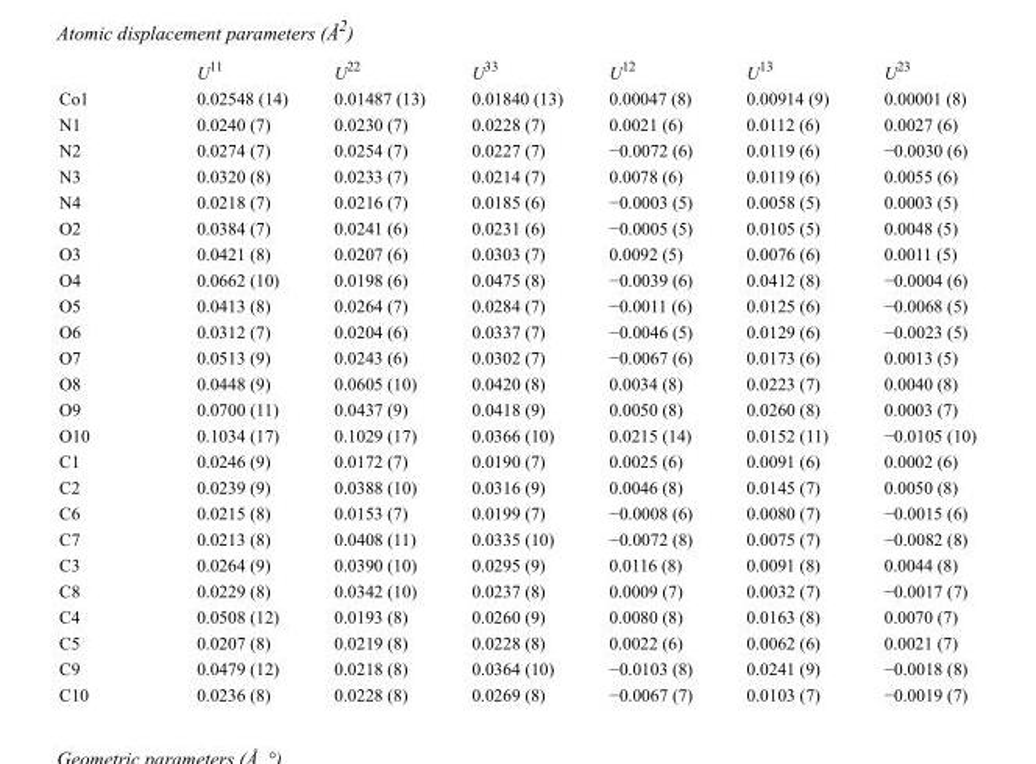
<table><thead><tr><td></td><td>U<sup>11</sup></td><td>U<sup>22</sup></td><td>U<sup>33</sup></td><td>U<sup>12</sup></td><td>U<sup>13</sup></td><td>U<sup>23</sup></td></tr></thead><tbody><tr><td>Co1</td><td>0.02548 (14)</td><td>0.01487 (13)</td><td>0.01840 (13)</td><td>0.00047 (8)</td><td>0.00914 (9)</td><td>0.00001 (8)</td></tr><tr><td>N1</td><td>0.0240 (7)</td><td>0.0230 (7)</td><td>0.0228 (7)</td><td>0.0021 (6)</td><td>0.0112 (6)</td><td>0.0027 (6)</td></tr><tr><td>N2</td><td>0.0274 (7)</td><td>0.0254 (7)</td><td>0.0227 (7)</td><td>−0.0072 (6)</td><td>0.0119 (6)</td><td>−0.0030 (6)</td></tr><tr><td>N3</td><td>0.0320 (8)</td><td>0.0233 (7)</td><td>0.0214 (7)</td><td>0.0078 (6)</td><td>0.0119 (6)</td><td>0.0055 (6)</td></tr><tr><td>N4</td><td>0.0218 (7)</td><td>0.0216 (7)</td><td>0.0185 (6)</td><td>−0.0003 (5)</td><td>0.0058 (5)</td><td>0.0003 (5)</td></tr><tr><td>O2</td><td>0.0384 (7)</td><td>0.0241 (6)</td><td>0.0231 (6)</td><td>−0.0005 (5)</td><td>0.0105 (5)</td><td>0.0048 (5)</td></tr><tr><td>O3</td><td>0.0421 (8)</td><td>0.0207 (6)</td><td>0.0303 (7)</td><td>0.0092 (5)</td><td>0.0076 (6)</td><td>0.0011 (5)</td></tr><tr><td>O4</td><td>0.0662 (10)</td><td>0.0198 (6)</td><td>0.0475 (8)</td><td>−0.0039 (6)</td><td>0.0412 (8)</td><td>−0.0004 (6)</td></tr><tr><td>O5</td><td>0.0413 (8)</td><td>0.0264 (7)</td><td>0.0284 (7)</td><td>−0.0011 (6)</td><td>0.0125 (6)</td><td>−0.0068 (5)</td></tr><tr><td>O6</td><td>0.0312 (7)</td><td>0.0204 (6)</td><td>0.0337 (7)</td><td>−0.0046 (5)</td><td>0.0129 (6)</td><td>−0.0023 (5)</td></tr><tr><td>O7</td><td>0.0513 (9)</td><td>0.0243 (6)</td><td>0.0302 (7)</td><td>−0.0067 (6)</td><td>0.0173 (6)</td><td>0.0013 (5)</td></tr><tr><td>O8</td><td>0.0448 (9)</td><td>0.0605 (10)</td><td>0.0420 (8)</td><td>0.0034 (8)</td><td>0.0223 (7)</td><td>0.0040 (8)</td></tr><tr><td>O9</td><td>0.0700 (11)</td><td>0.0437 (9)</td><td>0.0418 (9)</td><td>0.0050 (8)</td><td>0.0260 (8)</td><td>0.0003 (7)</td></tr><tr><td>O10</td><td>0.1034 (17)</td><td>0.1029 (17)</td><td>0.0366 (10)</td><td>0.0215 (14)</td><td>0.0152 (11)</td><td>−0.0105 (10)</td></tr><tr><td>C1</td><td>0.0246 (9)</td><td>0.0172 (7)</td><td>0.0190 (7)</td><td>0.0025 (6)</td><td>0.0091 (6)</td><td>0.0002 (6)</td></tr><tr><td>C2</td><td>0.0239 (9)</td><td>0.0388 (10)</td><td>0.0316 (9)</td><td>0.0046 (8)</td><td>0.0145 (7)</td><td>0.0050 (8)</td></tr><tr><td>C6</td><td>0.0215 (8)</td><td>0.0153 (7)</td><td>0.0199 (7)</td><td>−0.0008 (6)</td><td>0.0080 (7)</td><td>−0.0015 (6)</td></tr><tr><td>C7</td><td>0.0213 (8)</td><td>0.0408 (11)</td><td>0.0335 (10)</td><td>−0.0072 (8)</td><td>0.0075 (7)</td><td>−0.0082 (8)</td></tr><tr><td>C3</td><td>0.0264 (9)</td><td>0.0390 (10)</td><td>0.0295 (9)</td><td>0.0116 (8)</td><td>0.0091 (8)</td><td>0.0044 (8)</td></tr><tr><td>C8</td><td>0.0229 (8)</td><td>0.0342 (10)</td><td>0.0237 (8)</td><td>0.0009 (7)</td><td>0.0032 (7)</td><td>−0.0017 (7)</td></tr><tr><td>C4</td><td>0.0508 (12)</td><td>0.0193 (8)</td><td>0.0260 (9)</td><td>0.0080 (8)</td><td>0.0163 (8)</td><td>0.0070 (7)</td></tr><tr><td>C5</td><td>0.0207 (8)</td><td>0.0219 (8)</td><td>0.0228 (8)</td><td>0.0022 (6)</td><td>0.0062 (6)</td><td>0.0021 (7)</td></tr><tr><td>C9</td><td>0.0479 (12)</td><td>0.0218 (8)</td><td>0.0364 (10)</td><td>−0.0103 (8)</td><td>0.0241 (9)</td><td>−0.0018 (8)</td></tr><tr><td>C10</td><td>0.0236 (8)</td><td>0.0228 (8)</td><td>0.0269 (8)</td><td>−0.0067 (7)</td><td>0.0103 (7)</td><td>−0.0019 (7)</td></tr></tbody></table>